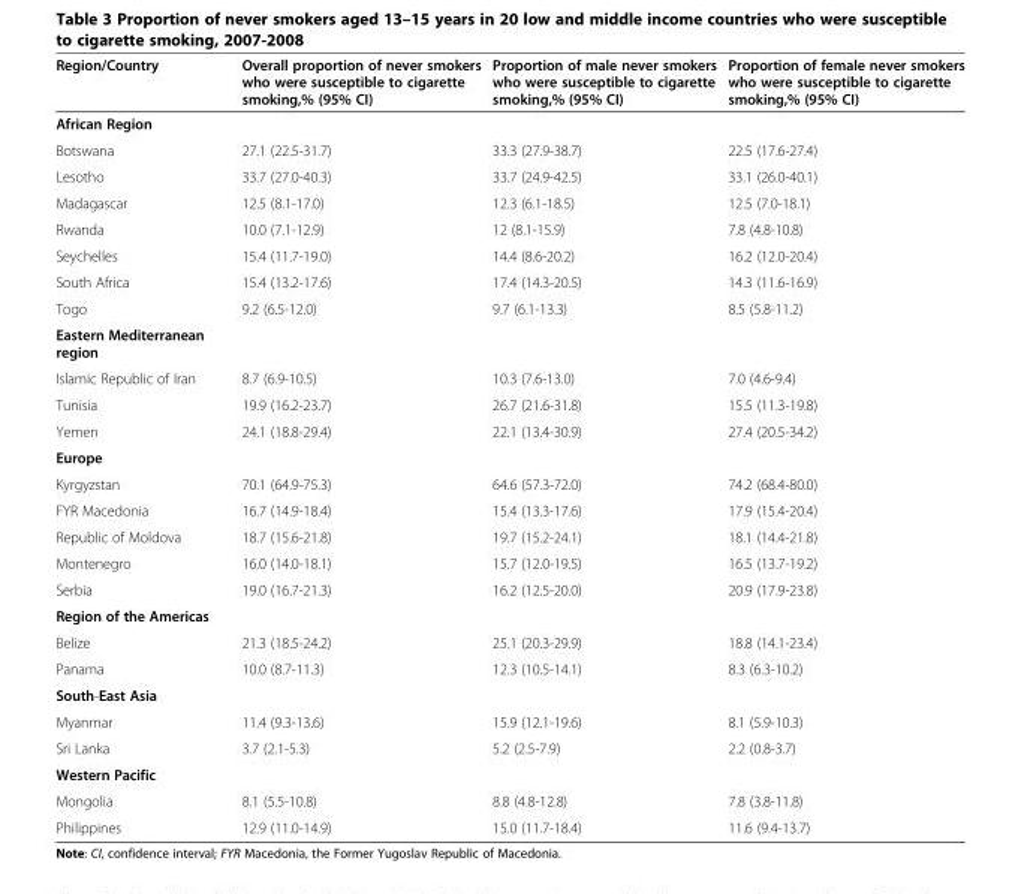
<table><thead><tr><td>Region/Country</td><td>Overall proportion of never smokers who were susceptible to cigarette smoking,% (95% CI)</td><td>Proportion of male never smokers who were susceptible to cigarette smoking,% (95% CI)</td><td>Proportion of female never smokers who were susceptible to cigarette smoking,% (95% CI)</td></tr></thead><tbody><tr><td colspan="4">African Region</td></tr><tr><td>Botswana</td><td>27.1 (22.5-31.7)</td><td>33.3 (27.9-38.7)</td><td>22.5 (17.6-27.4)</td></tr><tr><td>Lesotho</td><td>33.7 (27.0-40.3)</td><td>33.7 (24.9-42.5)</td><td>33.1 (26.0-40.1)</td></tr><tr><td>Madagascar</td><td>12.5 (8.1-17.0)</td><td>12.3 (6.1-18.5)</td><td>12.5 (7.0-18.1)</td></tr><tr><td>Rwanda</td><td>10.0 (7.1-12.9)</td><td>12 (8.1-15.9)</td><td>7.8 (4.8-10.8)</td></tr><tr><td>Seychelles</td><td>15.4 (11.7-19.0)</td><td>14.4 (8.6-20.2)</td><td>16.2 (12.0-20.4)</td></tr><tr><td>South Africa</td><td>15.4 (13.2-17.6)</td><td>17.4 (14.3-20.5)</td><td>14.3 (11.6-16.9)</td></tr><tr><td>Togo</td><td>9.2 (6.5-12.0)</td><td>9.7 (6.1-13.3)</td><td>8.5 (5.8-11.2)</td></tr><tr><td colspan="4">Eastern Mediterranean region</td></tr><tr><td>Islamic Republic of Iran</td><td>8.7 (6.9-10.5)</td><td>10.3 (7.6-13.0)</td><td>7.0 (4.6-9.4)</td></tr><tr><td>Tunisia</td><td>19.9 (16.2-23.7)</td><td>26.7 (21.6-31.8)</td><td>15.5 (11.3-19.8)</td></tr><tr><td>Yemen</td><td>24.1 (18.8-29.4)</td><td>22.1 (13.4-30.9)</td><td>27.4 (20.5-34.2)</td></tr><tr><td colspan="4">Europe</td></tr><tr><td>Kyrgyzstan</td><td>70.1 (64.9-75.3)</td><td>64.6 (57.3-72.0)</td><td>74.2 (68.4-80.0)</td></tr><tr><td>FYR Macedonia</td><td>16.7 (14.9-18.4)</td><td>15.4 (13.3-17.6)</td><td>17.9 (15.4-20.4)</td></tr><tr><td>Republic of Moldova</td><td>18.7 (15.6-21.8)</td><td>19.7 (15.2-24.1)</td><td>18.1 (14.4-21.8)</td></tr><tr><td>Montenegro</td><td>16.0 (14.0-18.1)</td><td>15.7 (12.0-19.5)</td><td>16.5 (13.7-19.2)</td></tr><tr><td>Serbia</td><td>19.0 (16.7-21.3)</td><td>16.2 (12.5-20.0)</td><td>20.9 (17.9-23.8)</td></tr><tr><td colspan="4">Region of the Americas</td></tr><tr><td>Belize</td><td>21.3 (18.5-24.2)</td><td>25.1 (20.3-29.9)</td><td>18.8 (14.1-23.4)</td></tr><tr><td>Panama</td><td>10.0 (8.7-11.3)</td><td>12.3 (10.5-14.1)</td><td>8.3 (6.3-10.2)</td></tr><tr><td colspan="4">South-East Asia</td></tr><tr><td>Myanmar</td><td>11.4 (9.3-13.6)</td><td>15.9 (12.1-19.6)</td><td>8.1 (5.9-10.3)</td></tr><tr><td>Sri Lanka</td><td>3.7 (2.1-5.3)</td><td>5.2 (2.5-7.9)</td><td>2.2 (0.8-3.7)</td></tr><tr><td colspan="4">Western Pacific</td></tr><tr><td>Mongolia</td><td>8.1 (5.5-10.8)</td><td>8.8 (4.8-12.8)</td><td>7.8 (3.8-11.8)</td></tr><tr><td>Philippines</td><td>12.9 (11.0-14.9)</td><td>15.0 (11.7-18.4)</td><td>11.6 (9.4-13.7)</td></tr></tbody></table>